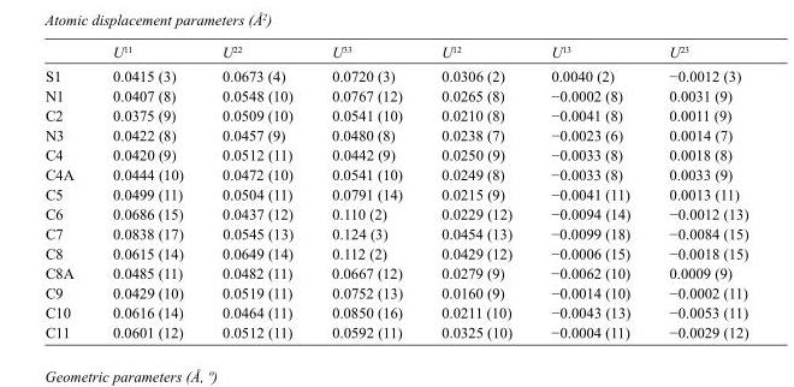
<table><thead><tr><td></td><td>U<sup>11</sup></td><td>U<sup>22</sup></td><td>U<sup>33</sup></td><td>U<sup>12</sup></td><td>U<sup>13</sup></td><td>U<sup>23</sup></td></tr></thead><tbody><tr><td>S1</td><td>0.0415 (3)</td><td>0.0673 (4)</td><td>0.0720 (3)</td><td>0.0306 (2)</td><td>0.0040 (2)</td><td>−0.0012 (3)</td></tr><tr><td>N1</td><td>0.0407 (8)</td><td>0.0548 (10)</td><td>0.0767 (12)</td><td>0.0265 (8)</td><td>−0.0002 (8)</td><td>0.0031 (9)</td></tr><tr><td>C2</td><td>0.0375 (9)</td><td>0.0509 (10)</td><td>0.0541 (10)</td><td>0.0210 (8)</td><td>−0.0041 (8)</td><td>0.0011 (9)</td></tr><tr><td>N3</td><td>0.0422 (8)</td><td>0.0457 (9)</td><td>0.0480 (8)</td><td>0.0238 (7)</td><td>−0.0023 (6)</td><td>0.0014 (7)</td></tr><tr><td>C4</td><td>0.0420 (9)</td><td>0.0512 (11)</td><td>0.0442 (9)</td><td>0.0250 (9)</td><td>−0.0033 (8)</td><td>0.0018 (8)</td></tr><tr><td>C4A</td><td>0.0444 (10)</td><td>0.0472 (10)</td><td>0.0541 (10)</td><td>0.0249 (8)</td><td>−0.0033 (8)</td><td>0.0033 (9)</td></tr><tr><td>C5</td><td>0.0499 (11)</td><td>0.0504 (11)</td><td>0.0791 (14)</td><td>0.0215 (9)</td><td>−0.0041 (11)</td><td>0.0013 (11)</td></tr><tr><td>C6</td><td>0.0686 (15)</td><td>0.0437 (12)</td><td>0.110 (2)</td><td>0.0229 (12)</td><td>−0.0094 (14)</td><td>−0.0012 (13)</td></tr><tr><td>C7</td><td>0.0838 (17)</td><td>0.0545 (13)</td><td>0.124 (3)</td><td>0.0454 (13)</td><td>−0.0099 (18)</td><td>−0.0084 (15)</td></tr><tr><td>C8</td><td>0.0615 (14)</td><td>0.0649 (14)</td><td>0.112 (2)</td><td>0.0429 (12)</td><td>−0.0006 (15)</td><td>−0.0018 (15)</td></tr><tr><td>C8A</td><td>0.0485 (11)</td><td>0.0482 (11)</td><td>0.0667 (12)</td><td>0.0279 (9)</td><td>−0.0062 (10)</td><td>0.0009 (9)</td></tr><tr><td>C9</td><td>0.0429 (10)</td><td>0.0519 (11)</td><td>0.0752 (13)</td><td>0.0160 (9)</td><td>−0.0014 (10)</td><td>−0.0002 (11)</td></tr><tr><td>C10</td><td>0.0616 (14)</td><td>0.0464 (11)</td><td>0.0850 (16)</td><td>0.0211 (10)</td><td>−0.0043 (13)</td><td>−0.0053 (11)</td></tr><tr><td>C11</td><td>0.0601 (12)</td><td>0.0512 (11)</td><td>0.0592 (11)</td><td>0.0325 (10)</td><td>−0.0004 (11)</td><td>−0.0029 (12)</td></tr></tbody></table>